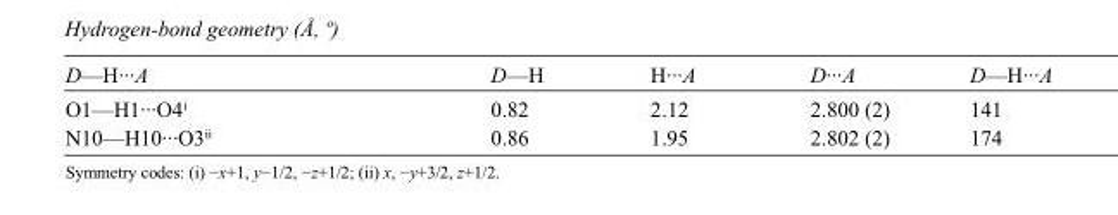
<table><tbody><tr><td>D—H···A</td><td>D—H</td><td>H···A</td><td>D···A</td><td>D—H···A</td></tr><tr><td>O1—H1···O4<sup>i</sup></td><td>0.82</td><td>2.12</td><td>2.800 (2)</td><td>141</td></tr><tr><td>N10—H10···O3<sup>ii</sup></td><td>0.86</td><td>1.95</td><td>2.802 (2)</td><td>174</td></tr></tbody></table>